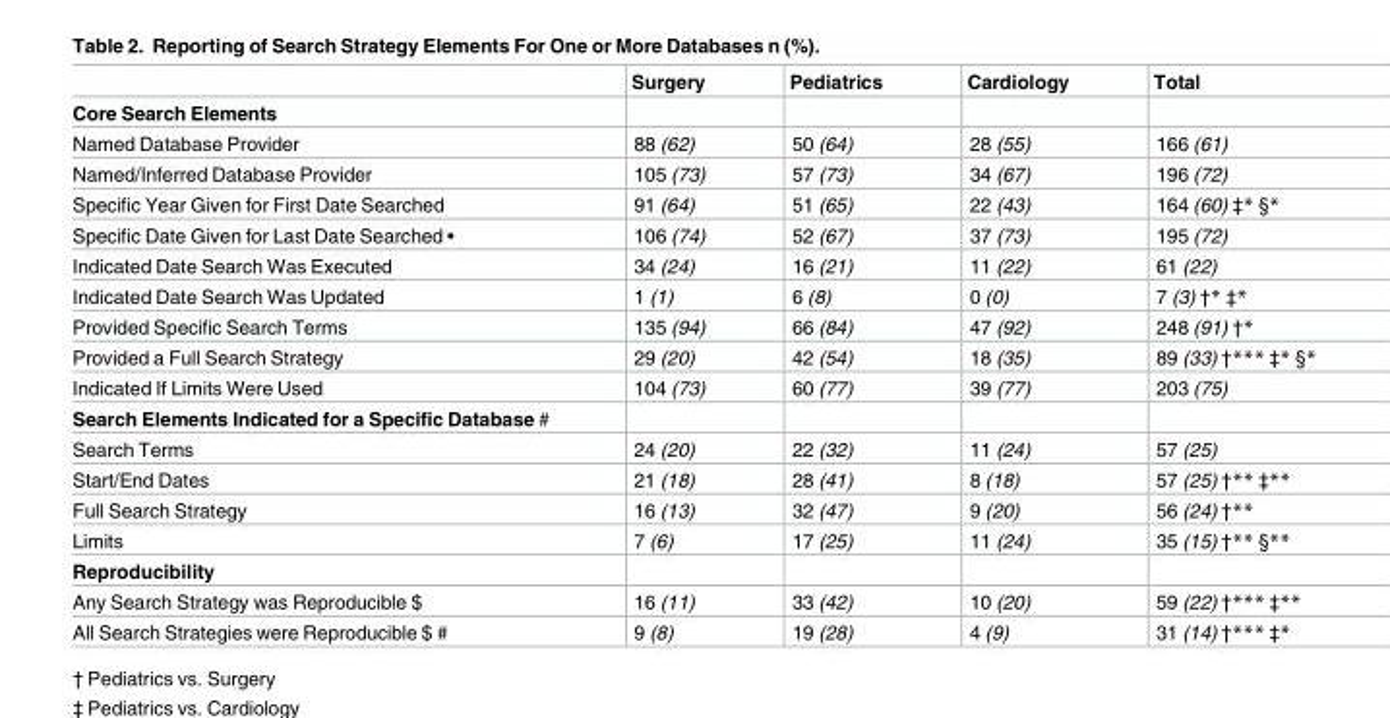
<table><thead><tr><td></td><td>Surgery</td><td>Pediatrics</td><td>Cardiology</td><td>Total</td></tr></thead><tbody><tr><td colspan="5">Core Search Elements</td></tr><tr><td>Named Database Provider</td><td>88 (62)</td><td>50 (64)</td><td>28 (55)</td><td>166 (61)</td></tr><tr><td>Named/Inferred Database Provider</td><td>105 (73)</td><td>57 (73)</td><td>34 (67)</td><td>196 (72)</td></tr><tr><td>Specific Year Given for First Date Searched</td><td>91 (64)</td><td>51 (65)</td><td>22 (43)</td><td>164 (60) ‡* §*</td></tr><tr><td>Specific Date Given for Last Date Searched •</td><td>106 (74)</td><td>52 (67)</td><td>37 (73)</td><td>195 (72)</td></tr><tr><td>Indicated Date Search Was Executed</td><td>34 (24)</td><td>16 (21)</td><td>11 (22)</td><td>61 (22)</td></tr><tr><td>Indicated Date Search Was Updated</td><td>1 (1)</td><td>6 (8)</td><td>0 (0)</td><td>7 (3) †* ‡*</td></tr><tr><td>Provided Specific Search Terms</td><td>135 (94)</td><td>66 (84)</td><td>47 (92)</td><td>248 (91) †*</td></tr><tr><td>Provided a Full Search Strategy</td><td>29 (20)</td><td>42 (54)</td><td>18 (35)</td><td>89 (33) †*** ‡* §*</td></tr><tr><td>Indicated If Limits Were Used</td><td>104 (73)</td><td>60 (77)</td><td>39 (77)</td><td>203 (75)</td></tr><tr><td colspan="5">Search Elements Indicated for a Specific Database #</td></tr><tr><td>Search Terms</td><td>24 (20)</td><td>22 (32)</td><td>11 (24)</td><td>57 (25)</td></tr><tr><td>Start/End Dates</td><td>21 (18)</td><td>28 (41)</td><td>8 (18)</td><td>57 (25) †** ‡**</td></tr><tr><td>Full Search Strategy</td><td>16 (13)</td><td>32 (47)</td><td>9 (20)</td><td>56 (24) †**</td></tr><tr><td>Limits</td><td>7 (6)</td><td>17 (25)</td><td>11 (24)</td><td>35 (15) †** §**</td></tr><tr><td colspan="5">Reproducibility</td></tr><tr><td>Any Search Strategy was Reproducible $</td><td>16 (11)</td><td>33 (42)</td><td>10 (20)</td><td>59 (22) †*** ‡**</td></tr><tr><td>All Search Strategies were Reproducible $ #</td><td>9 (8)</td><td>19 (28)</td><td>4 (9)</td><td>31 (14) †*** ‡*</td></tr></tbody></table>